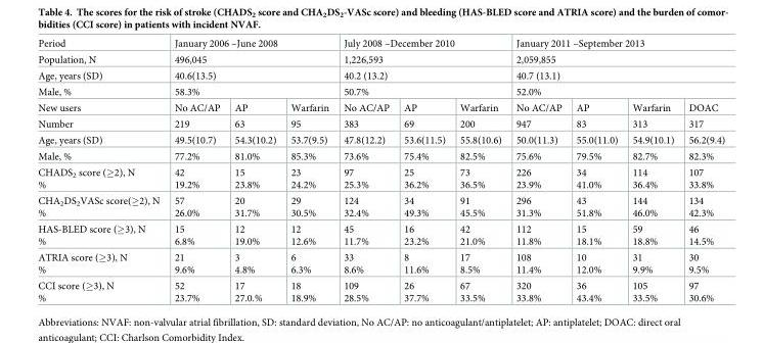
<table><tbody><tr><td>Period</td><td colspan="3">January 2006 –June 2008</td><td colspan="3">July 2008 –December 2010</td><td colspan="4">January 2011 –September 2013</td></tr><tr><td>Population, N</td><td colspan="3">496,045</td><td colspan="3">1,226,593</td><td colspan="4">2,059,855</td></tr><tr><td>Age, years (SD)</td><td colspan="3">40.6(13.5)</td><td colspan="3">40.2 (13.2)</td><td colspan="4">40.7 (13.1)</td></tr><tr><td>Male, %</td><td colspan="3">58.3%</td><td colspan="3">50.7%</td><td colspan="4">52.0%</td></tr><tr><td>New users</td><td>No AC/AP</td><td>AP</td><td>Warfarin</td><td>No AC/AP</td><td>AP</td><td>Warfarin</td><td>No AC/AP</td><td>AP</td><td>Warfarin</td><td>DOAC</td></tr><tr><td>Number</td><td>219</td><td>63</td><td>95</td><td>383</td><td>69</td><td>200</td><td>947</td><td>83</td><td>313</td><td>317</td></tr><tr><td>Age, years (SD)</td><td>49.5(10.7)</td><td>54.3(10.2)</td><td>53.7(9.5)</td><td>47.8(12.2)</td><td>53.6(11.5)</td><td>55.8(10.6)</td><td>50.0(11.3)</td><td>55.0(11.0)</td><td>54.9(10.1)</td><td>56.2(9.4)</td></tr><tr><td>Male, %</td><td>77.2%</td><td>81.0%</td><td>85.3%</td><td>73.6%</td><td>75.4%</td><td>82.5%</td><td>75.6%</td><td>79.5%</td><td>82.7%</td><td>82.3%</td></tr><tr><td>CHADS<sub>2</sub> score (≥2), N %</td><td>42 19.2%</td><td>15 23.8%</td><td>23 24.2%</td><td>97 25.3%</td><td>25 36.2%</td><td>73 36.5%</td><td>226 23.9%</td><td>34 41.0%</td><td>114 36.4%</td><td>107 33.8%</td></tr><tr><td>CHA<sub>2</sub>DS<sub>2</sub>VASc score(≥2), N %</td><td>57 26.0%</td><td>20 31.7%</td><td>29 30.5%</td><td>124 32.4%</td><td>34 49.3%</td><td>91 45.5%</td><td>296 31.3%</td><td>43 51.8%</td><td>144 46.0%</td><td>134 42.3%</td></tr><tr><td>HAS-BLED score (≥3), N %</td><td>15 6.8%</td><td>12 19.0%</td><td>12 12.6%</td><td>45 11.7%</td><td>16 23.2%</td><td>42 21.0%</td><td>112 11.8%</td><td>15 18.1%</td><td>59 18.8%</td><td>46 14.5%</td></tr><tr><td>ATRIA score (≥3), N %</td><td>21 9.6%</td><td>3 4.8%</td><td>6 6.3%</td><td>33 8.6%</td><td>8 11.6%</td><td>17 8.5%</td><td>108 11.4%</td><td>10 12.0%</td><td>31 9.9%</td><td>30 9.5%</td></tr><tr><td>CCI score (≥3), N %</td><td>52 23.7%</td><td>17 27.0.%</td><td>18 18.9%</td><td>109 28.5%</td><td>26 37.7%</td><td>67 33.5%</td><td>320 33.8%</td><td>36 43.4%</td><td>105 33.5%</td><td>97 30.6%</td></tr></tbody></table>